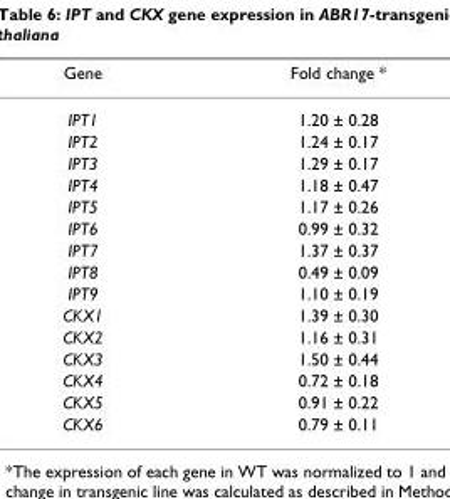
<table><thead><tr><td>Gene</td><td>Fold change *</td></tr></thead><tbody><tr><td>IPT1</td><td>1.20 ± 0.28</td></tr><tr><td>IPT2</td><td>1.24 ± 0.17</td></tr><tr><td>IPT3</td><td>1.29 ± 0.17</td></tr><tr><td>IPT4</td><td>1.18 ± 0.47</td></tr><tr><td>IPT5</td><td>1.17 ± 0.26</td></tr><tr><td>IPT6</td><td>0.99 ± 0.32</td></tr><tr><td>IPT7</td><td>1.37 ± 0.37</td></tr><tr><td>IPT8</td><td>0.49 ± 0.09</td></tr><tr><td>IPT9</td><td>1.10 ± 0.19</td></tr><tr><td>CKX1</td><td>1.39 ± 0.30</td></tr><tr><td>CKX2</td><td>1.16 ± 0.31</td></tr><tr><td>CKX3</td><td>1.50 ± 0.44</td></tr><tr><td>CKX4</td><td>0.72 ± 0.18</td></tr><tr><td>CKX5</td><td>0.91 ± 0.22</td></tr><tr><td>CKX6</td><td>0.79 ± 0.11</td></tr></tbody></table>